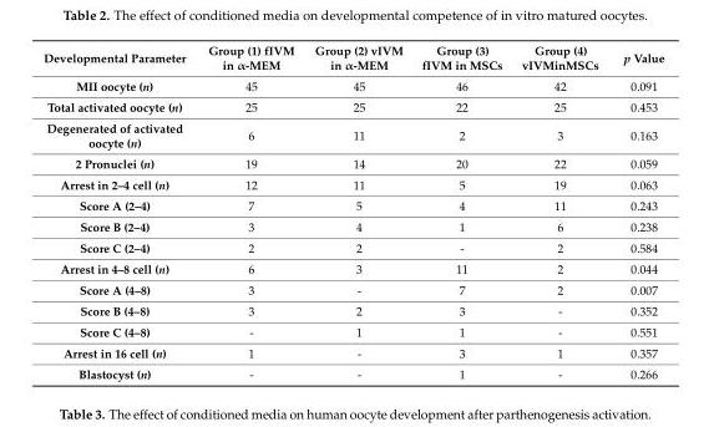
<table><thead><tr><td>Developmental Parameter</td><td>Group (1) fIVM in α-MEM</td><td>Group (2) vIVM in α-MEM</td><td>Group (3) fIVM in MSCs</td><td>Group (4) vIVMinMSCs</td><td>p Value</td></tr></thead><tbody><tr><td>MII oocyte (n)</td><td>45</td><td>45</td><td>46</td><td>42</td><td>0.091</td></tr><tr><td>Total activated oocyte (n)</td><td>25</td><td>25</td><td>22</td><td>25</td><td>0.453</td></tr><tr><td>Degenerated of activated oocyte (n)</td><td>6</td><td>11</td><td>2</td><td>3</td><td>0.163</td></tr><tr><td>2 Pronuclei (n)</td><td>19</td><td>14</td><td>20</td><td>22</td><td>0.059</td></tr><tr><td>Arrest in 2–4 cell (n)</td><td>12</td><td>11</td><td>5</td><td>19</td><td>0.063</td></tr><tr><td>Score A (2–4)</td><td>7</td><td>5</td><td>4</td><td>11</td><td>0.243</td></tr><tr><td>Score B (2–4)</td><td>3</td><td>4</td><td>1</td><td>6</td><td>0.238</td></tr><tr><td>Score C (2–4)</td><td>2</td><td>2</td><td>-</td><td>2</td><td>0.584</td></tr><tr><td>Arrest in 4–8 cell (n)</td><td>6</td><td>3</td><td>11</td><td>2</td><td>0.044</td></tr><tr><td>Score A (4–8)</td><td>3</td><td>-</td><td>7</td><td>2</td><td>0.007</td></tr><tr><td>Score B (4–8)</td><td>3</td><td>2</td><td>3</td><td>-</td><td>0.352</td></tr><tr><td>Score C (4–8)</td><td>-</td><td>1</td><td>1</td><td>-</td><td>0.551</td></tr><tr><td>Arrest in 16 cell (n)</td><td>1</td><td>-</td><td>3</td><td>1</td><td>0.357</td></tr><tr><td>Blastocyst (n)</td><td>-</td><td>-</td><td>1</td><td>-</td><td>0.266</td></tr></tbody></table>